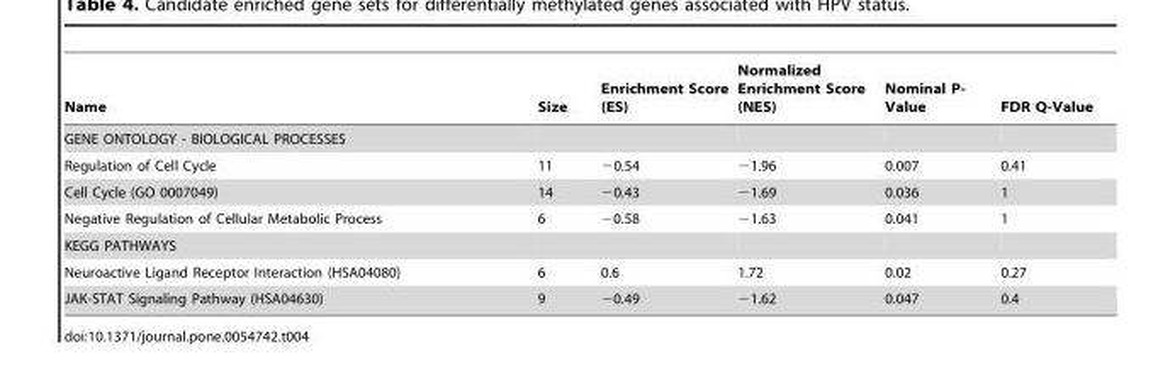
<table><thead><tr><td>Name</td><td>Size</td><td>Enrichment Score (ES)</td><td>Normalized Enrichment Score (NES)</td><td>Nominal P- Value</td><td>FDR Q-Value</td></tr></thead><tbody><tr><td colspan="6">GENE ONTOLOGY - BIOLOGICAL PROCESSES</td></tr><tr><td>Regulation of Cell Cycle</td><td>11</td><td>−0.54</td><td>−1.96</td><td>0.007</td><td>0.41</td></tr><tr><td>Cell Cycle (GO 0007049)</td><td>14</td><td>−0.43</td><td>−1.69</td><td>0.036</td><td>1</td></tr><tr><td>Negative Regulation of Cellular Metabolic Process</td><td>6</td><td>−0.58</td><td>−1.63</td><td>0.041</td><td>1</td></tr><tr><td colspan="6">KEGG PATHWAYS</td></tr><tr><td>Neuroactive Ligand Receptor Interaction (HSA04080)</td><td>6</td><td>0.6</td><td>1.72</td><td>0.02</td><td>0.27</td></tr><tr><td>JAK-STAT Signaling Pathway (HSA04630)</td><td>9</td><td>−0.49</td><td>−1.62</td><td>0.047</td><td>0.4</td></tr></tbody></table>